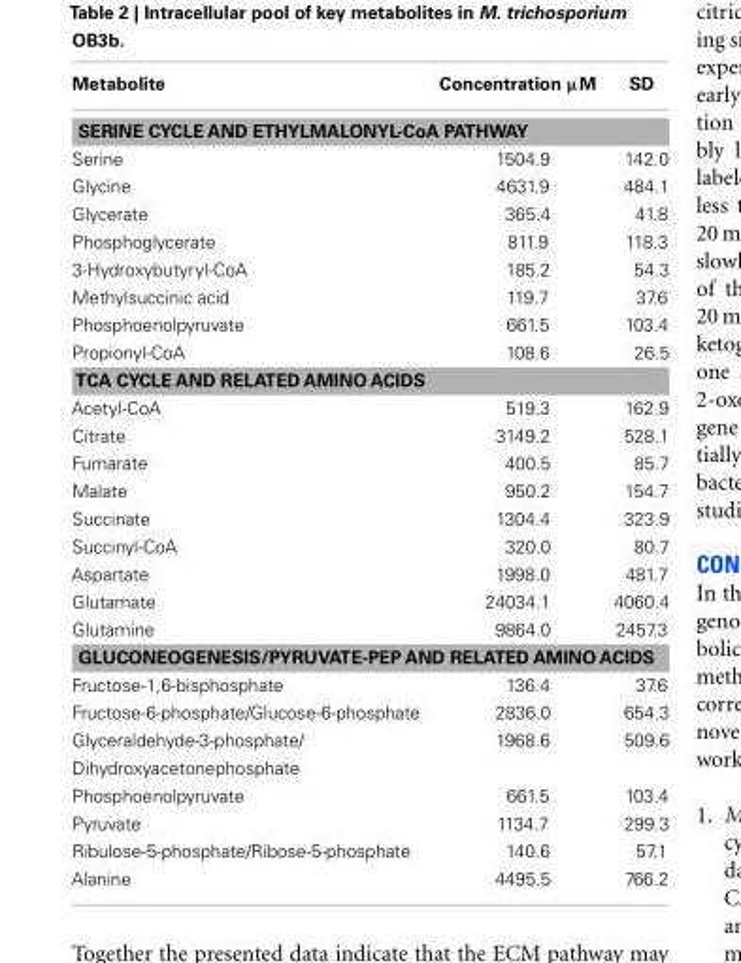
<table><thead><tr><td>Metabolite</td><td>Concentration µM</td><td>SD</td></tr></thead><tbody><tr><td colspan="3">SERINE CYCLE AND ETHYLMALONYL-CoA PATHWAY</td></tr><tr><td>Serine</td><td>1504.9</td><td>142.0</td></tr><tr><td>Glycine</td><td>4631.9</td><td>484.1</td></tr><tr><td>Glycerate</td><td>365.4</td><td>41.8</td></tr><tr><td>Phosphoglycerate</td><td>811.9</td><td>118.3</td></tr><tr><td>3-Hydroxybutyryl-CoA</td><td>185.2</td><td>54.3</td></tr><tr><td>Methylsuccinic acid</td><td>119.7</td><td>37.6</td></tr><tr><td>Phosphoenolpyruvate</td><td>661.5</td><td>103.4</td></tr><tr><td>Propionyl-CoA</td><td>108.6</td><td>26.5</td></tr><tr><td colspan="3">TCA CYCLE AND RELATED AMINO ACIDS</td></tr><tr><td>Acetyl-CoA</td><td>519.3</td><td>162.9</td></tr><tr><td>Citrate</td><td>3149.2</td><td>528.1</td></tr><tr><td>Fumarate</td><td>400.5</td><td>85.7</td></tr><tr><td>Malate</td><td>950.2</td><td>154.7</td></tr><tr><td>Succinate</td><td>1304.4</td><td>323.9</td></tr><tr><td>Succinyl-CoA</td><td>320.0</td><td>80.7</td></tr><tr><td>Aspartate</td><td>1998.0</td><td>481.7</td></tr><tr><td>Glutamate</td><td>24034.1</td><td>4060.4</td></tr><tr><td>Glutamine</td><td>9864.0</td><td>2457.3</td></tr><tr><td colspan="3">GLUCONEOGENESIS/PYRUVATE-PEP AND RELATED AMINO ACIDS</td></tr><tr><td>Fructose-1,6-bisphosphate</td><td>136.4</td><td>37.6</td></tr><tr><td>Fructose-6-phosphate/Glucose-6-phosphate</td><td>2836.0</td><td>654.3</td></tr><tr><td>Glyceraldehyde-3-phosphate/ Dihydroxyacetonephosphate</td><td>1968.6</td><td>509.6</td></tr><tr><td>Phosphoenolpyruvate</td><td>661.5</td><td>103.4</td></tr><tr><td>Pyruvate</td><td>1134.7</td><td>299.3</td></tr><tr><td>Ribulose-5-phosphate/Ribose-5-phosphate</td><td>140.6</td><td>57.1</td></tr><tr><td>Alanine</td><td>4495.5</td><td>766.2</td></tr></tbody></table>